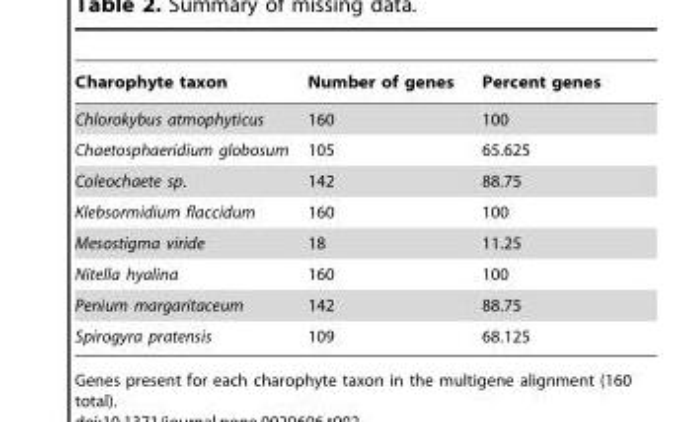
<table><thead><tr><td>Charophyte taxon</td><td>Number of genes</td><td>Percent genes</td></tr></thead><tbody><tr><td>Chlorokybus atmophyticus</td><td>160</td><td>100</td></tr><tr><td>Chaetosphaeridium globosum</td><td>105</td><td>65.625</td></tr><tr><td>Coleochaete sp.</td><td>142</td><td>88.75</td></tr><tr><td>Klebsormidium flaccidum</td><td>160</td><td>100</td></tr><tr><td>Mesostigma viride</td><td>18</td><td>11.25</td></tr><tr><td>Nitella hyalina</td><td>160</td><td>100</td></tr><tr><td>Penium margaritaceum</td><td>142</td><td>88.75</td></tr><tr><td>Spirogyra pratensis</td><td>109</td><td>68.125</td></tr></tbody></table>